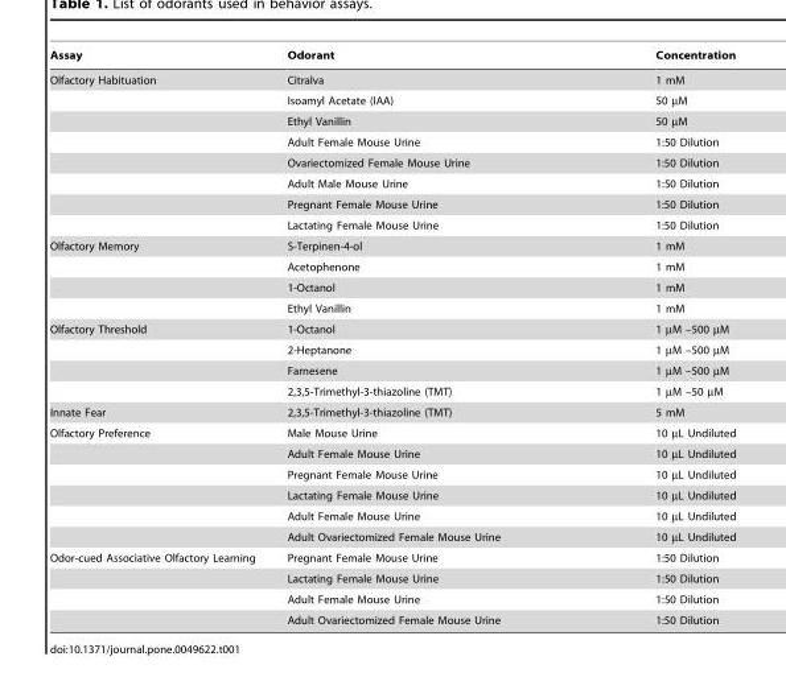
<table><thead><tr><td>Assay</td><td>Odorant</td><td>Concentration</td></tr></thead><tbody><tr><td rowspan="8">Olfactory Habituation</td><td>Citralva</td><td>1 mM</td></tr><tr><td>Isoamyl Acetate (IAA)</td><td>50 µM</td></tr><tr><td>Ethyl Vanillin</td><td>50 µM</td></tr><tr><td>Adult Female Mouse Urine</td><td>1:50 Dilution</td></tr><tr><td>Ovariectomized Female Mouse Urine</td><td>1:50 Dilution</td></tr><tr><td>Adult Male Mouse Urine</td><td>1:50 Dilution</td></tr><tr><td>Pregnant Female Mouse Urine</td><td>1:50 Dilution</td></tr><tr><td>Lactating Female Mouse Urine</td><td>1:50 Dilution</td></tr><tr><td rowspan="4">Olfactory Memory</td><td>S-Terpinen-4-ol</td><td>1 mM</td></tr><tr><td>Acetophenone</td><td>1 mM</td></tr><tr><td>1-Octanol</td><td>1 mM</td></tr><tr><td>Ethyl Vanillin</td><td>1 mM</td></tr><tr><td rowspan="4">Olfactory Threshold</td><td>1-Octanol</td><td>1 µM –500 µM</td></tr><tr><td>2-Heptanone</td><td>1 µM –500 µM</td></tr><tr><td>Farnesene</td><td>1 µM –500 µM</td></tr><tr><td>2,3,5-Trimethyl-3-thiazoline (TMT)</td><td>1 µM –50 µM</td></tr><tr><td>Innate Fear</td><td>2,3,5-Trimethyl-3-thiazoline (TMT)</td><td>5 mM</td></tr><tr><td rowspan="6">Olfactory Preference</td><td>Male Mouse Urine</td><td>10 µL Undiluted</td></tr><tr><td>Adult Female Mouse Urine</td><td>10 µL Undiluted</td></tr><tr><td>Pregnant Female Mouse Urine</td><td>10 µL Undiluted</td></tr><tr><td>Lactating Female Mouse Urine</td><td>10 µL Undiluted</td></tr><tr><td>Adult Female Mouse Urine</td><td>10 µL Undiluted</td></tr><tr><td>Adult Ovariectomized Female Mouse Urine</td><td>10 µL Undiluted</td></tr><tr><td rowspan="4">Odor-cued Associative Olfactory Learning</td><td>Pregnant Female Mouse Urine</td><td>1:50 Dilution</td></tr><tr><td>Lactating Female Mouse Urine</td><td>1:50 Dilution</td></tr><tr><td>Adult Female Mouse Urine</td><td>1:50 Dilution</td></tr><tr><td>Adult Ovariectomized Female Mouse Urine</td><td>1:50 Dilution</td></tr></tbody></table>